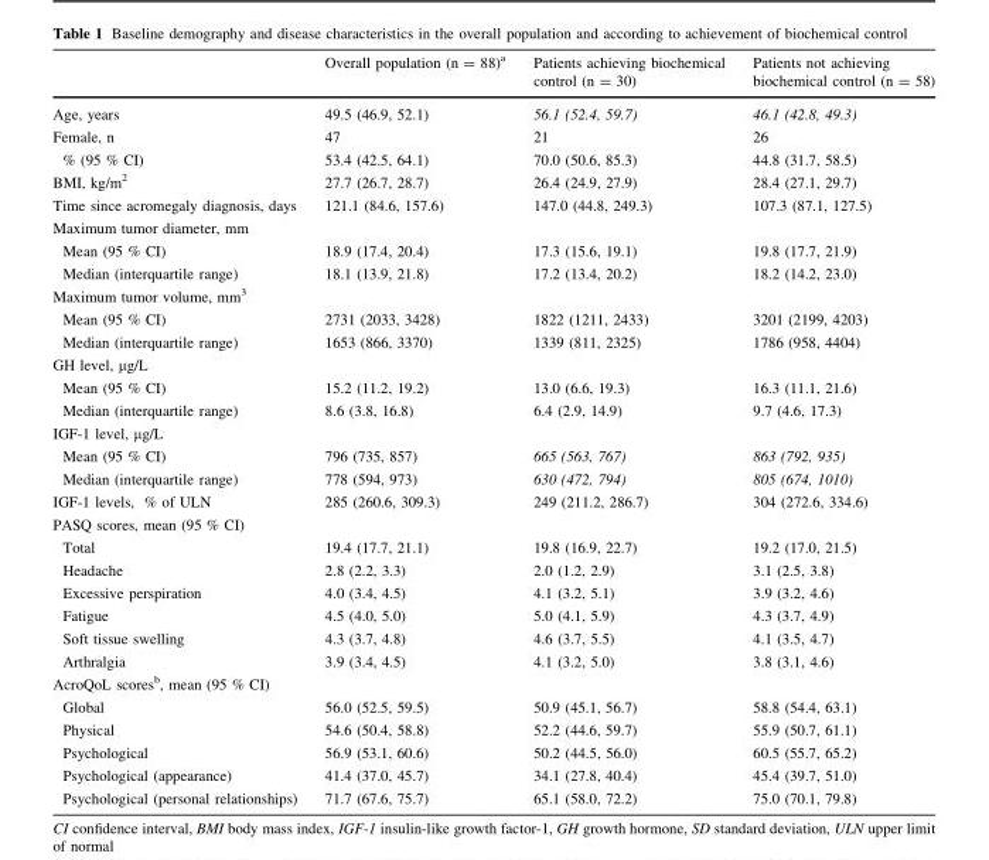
<table><thead><tr><td></td><td>Overall population (n = 88)<sup>a</sup></td><td>Patients achieving biochemical control (n = 30)</td><td>Patients not achieving biochemical control (n = 58)</td></tr></thead><tbody><tr><td>Age, years</td><td>49.5 (46.9, 52.1)</td><td>56.1 (52.4, 59.7)</td><td>46.1 (42.8, 49.3)</td></tr><tr><td>Female, n</td><td>47</td><td>21</td><td>26</td></tr><tr><td>% (95 % CI)</td><td>53.4 (42.5, 64.1)</td><td>70.0 (50.6, 85.3)</td><td>44.8 (31.7, 58.5)</td></tr><tr><td>BMI, kg/m<sup>2</sup></td><td>27.7 (26.7, 28.7)</td><td>26.4 (24.9, 27.9)</td><td>28.4 (27.1, 29.7)</td></tr><tr><td>Time since acromegaly diagnosis, days</td><td>121.1 (84.6, 157.6)</td><td>147.0 (44.8, 249.3)</td><td>107.3 (87.1, 127.5)</td></tr><tr><td colspan="4">Maximum tumor diameter, mm</td></tr><tr><td>Mean (95 % CI)</td><td>18.9 (17.4, 20.4)</td><td>17.3 (15.6, 19.1)</td><td>19.8 (17.7, 21.9)</td></tr><tr><td>Median (interquartile range)</td><td>18.1 (13.9, 21.8)</td><td>17.2 (13.4, 20.2)</td><td>18.2 (14.2, 23.0)</td></tr><tr><td colspan="4">Maximum tumor volume, mm<sup>3</sup></td></tr><tr><td>Mean (95 % CI)</td><td>2731 (2033, 3428)</td><td>1822 (1211, 2433)</td><td>3201 (2199, 4203)</td></tr><tr><td>Median (interquartile range)</td><td>1653 (866, 3370)</td><td>1339 (811, 2325)</td><td>1786 (958, 4404)</td></tr><tr><td colspan="4">GH level, µg/L</td></tr><tr><td>Mean (95 % CI)</td><td>15.2 (11.2, 19.2)</td><td>13.0 (6.6, 19.3)</td><td>16.3 (11.1, 21.6)</td></tr><tr><td>Median (interquartile range)</td><td>8.6 (3.8, 16.8)</td><td>6.4 (2.9, 14.9)</td><td>9.7 (4.6, 17.3)</td></tr><tr><td colspan="4">IGF-1 level, µg/L</td></tr><tr><td>Mean (95 % CI)</td><td>796 (735, 857)</td><td>665 (563, 767)</td><td>863 (792, 935)</td></tr><tr><td>Median (interquartile range)</td><td>778 (594, 973)</td><td>630 (472, 794)</td><td>805 (674, 1010)</td></tr><tr><td>IGF-1 levels, % of ULN</td><td>285 (260.6, 309.3)</td><td>249 (211.2, 286.7)</td><td>304 (272.6, 334.6)</td></tr><tr><td colspan="4">PASQ scores, mean (95 % CI)</td></tr><tr><td>Total</td><td>19.4 (17.7, 21.1)</td><td>19.8 (16.9, 22.7)</td><td>19.2 (17.0, 21.5)</td></tr><tr><td>Headache</td><td>2.8 (2.2, 3.3)</td><td>2.0 (1.2, 2.9)</td><td>3.1 (2.5, 3.8)</td></tr><tr><td>Excessive perspiration</td><td>4.0 (3.4, 4.5)</td><td>4.1 (3.2, 5.1)</td><td>3.9 (3.2, 4.6)</td></tr><tr><td>Fatigue</td><td>4.5 (4.0, 5.0)</td><td>5.0 (4.1, 5.9)</td><td>4.3 (3.7, 4.9)</td></tr><tr><td>Soft tissue swelling</td><td>4.3 (3.7, 4.8)</td><td>4.6 (3.7, 5.5)</td><td>4.1 (3.5, 4.7)</td></tr><tr><td>Arthralgia</td><td>3.9 (3.4, 4.5)</td><td>4.1 (3.2, 5.0)</td><td>3.8 (3.1, 4.6)</td></tr><tr><td colspan="4">AcroQoL scores<sup>b</sup>, mean (95 % CI)</td></tr><tr><td>Global</td><td>56.0 (52.5, 59.5)</td><td>50.9 (45.1, 56.7)</td><td>58.8 (54.4, 63.1)</td></tr><tr><td>Physical</td><td>54.6 (50.4, 58.8)</td><td>52.2 (44.6, 59.7)</td><td>55.9 (50.7, 61.1)</td></tr><tr><td>Psychological</td><td>56.9 (53.1, 60.6)</td><td>50.2 (44.5, 56.0)</td><td>60.5 (55.7, 65.2)</td></tr><tr><td>Psychological (appearance)</td><td>41.4 (37.0, 45.7)</td><td>34.1 (27.8, 40.4)</td><td>45.4 (39.7, 51.0)</td></tr><tr><td>Psychological (personal relationships)</td><td>71.7 (67.6, 75.7)</td><td>65.1 (58.0, 72.2)</td><td>75.0 (70.1, 79.8)</td></tr></tbody></table>